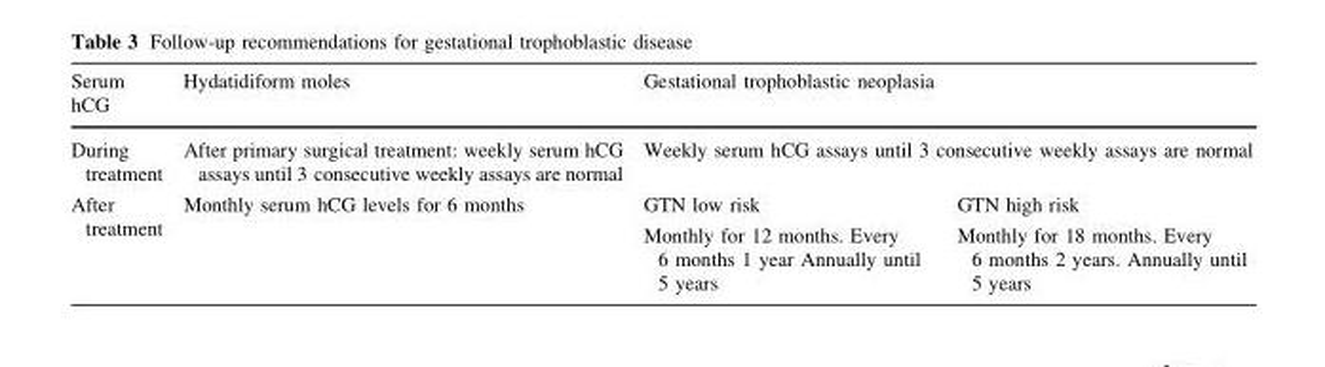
<table><thead><tr><td rowspan="3">Serum hCG During treatment After treatment</td><td rowspan="3">Hydatidiform moles After primary surgical treatment: weekly serum hCG assays until 3 consecutive weekly assays are normal Monthly serum hCG levels for 6 months</td><td rowspan="2" colspan="2">Gestational trophoblastic neoplasia Weekly serum hCG assays until 3 consecutive weekly assays are normal</td></tr><tr></tr><tr><td>GTN low risk Monthly for 12 months. Every 6 months 1 year Annually until 5 years</td><td>GTN high risk Monthly for 18 months. Every 6 months 2 years. Annually until 5 years</td></tr></thead><tbody></tbody></table>